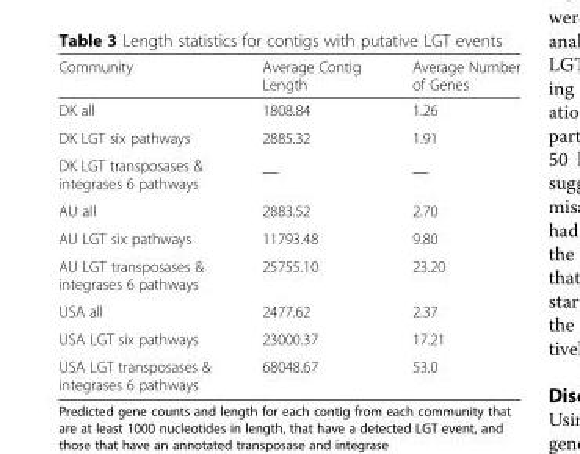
<table><thead><tr><td>Community</td><td>Average Contig Length</td><td>Average Number of Genes</td></tr></thead><tbody><tr><td>DK all</td><td>1808.84</td><td>1.26</td></tr><tr><td>DK LGT six pathways</td><td>2885.32</td><td>1.91</td></tr><tr><td>DK LGT transposases &amp; integrases 6 pathways</td><td>__</td><td>__</td></tr><tr><td>AU all</td><td>2883.52</td><td>2.70</td></tr><tr><td>AU LGT six pathways</td><td>11793.48</td><td>9.80</td></tr><tr><td>AU LGT transposases &amp; integrases 6 pathways</td><td>25755.10</td><td>23.20</td></tr><tr><td>USA all</td><td>2477.62</td><td>2.37</td></tr><tr><td>USA LGT six pathways</td><td>23000.37</td><td>17.21</td></tr><tr><td>USA LGT transposases &amp; integrases 6 pathways</td><td>68048.67</td><td>53.0</td></tr></tbody></table>